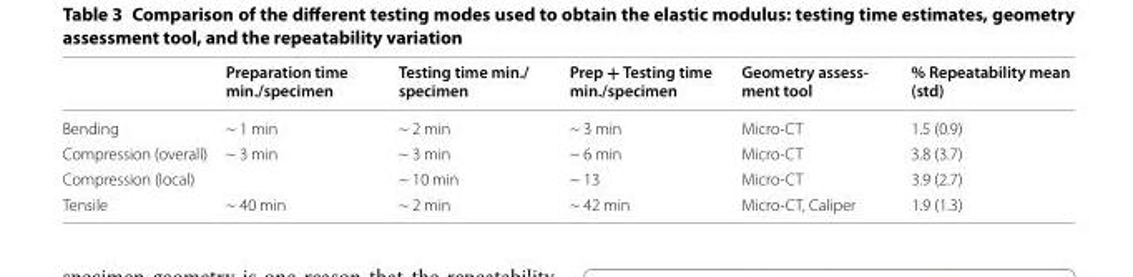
<table><thead><tr><td></td><td>Preparation time min./specimen</td><td>Testing time min./ specimen</td><td>Prep + Testing time min./specimen</td><td>Geometry assess‑ ment tool</td><td>% Repeatability mean (std)</td></tr></thead><tbody><tr><td>Bending</td><td>~ 1 min</td><td>~ 2 min</td><td>~ 3 min</td><td>Micro‑CT</td><td>1.5 (0.9)</td></tr><tr><td>Compression (overall)</td><td rowspan="2">~ 3 min</td><td>~ 3 min</td><td>~ 6 min</td><td>Micro‑CT</td><td>3.8 (3.7)</td></tr><tr><td>Compression (local)</td><td>~ 10 min</td><td>~ 13</td><td>Micro‑CT</td><td>3.9 (2.7)</td></tr><tr><td>Tensile</td><td>~ 40 min</td><td>~ 2 min</td><td>~ 42 min</td><td>Micro‑CT, Caliper</td><td>1.9 (1.3)</td></tr></tbody></table>